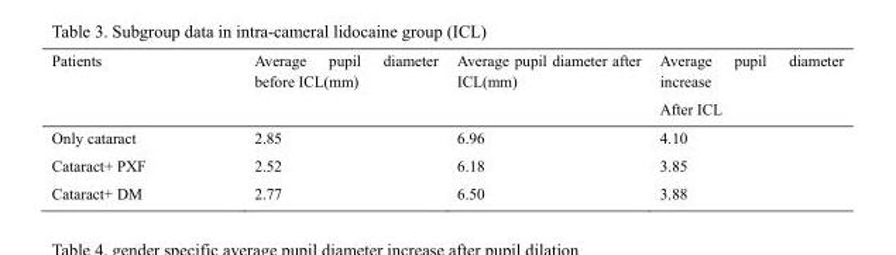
<table><thead><tr><td>Patients</td><td>Average pupil diameter before ICL(mm)</td><td>Average pupil diameter after ICL(mm)</td><td>Average pupil diameter increase After ICL</td></tr></thead><tbody><tr><td>Only cataract</td><td>2.85</td><td>6.96</td><td>4.10</td></tr><tr><td>Cataract+ PXF</td><td>2.52</td><td>6.18</td><td>3.85</td></tr><tr><td>Cataract+ DM</td><td>2.77</td><td>6.50</td><td>3.88</td></tr></tbody></table>